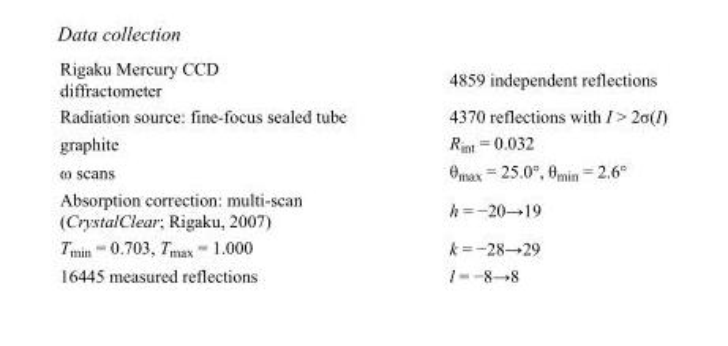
<table><tbody><tr><td>Rigaku Mercury CCD diffractometer</td><td>4859 independent reflections</td></tr><tr><td>Radiation source: fine-focus sealed tube</td><td>4370 reflections with I &gt; 2σ(I)</td></tr><tr><td>graphite</td><td>R<sub>int</sub> = 0.032</td></tr><tr><td>ω scans</td><td>θ<sub>max</sub> = 25.0°, θ<sub>min</sub> = 2.6°</td></tr><tr><td>Absorption correction: multi-scan (CrystalClear; Rigaku, 2007)</td><td>h = −20→19</td></tr><tr><td>T<sub>min</sub> = 0.703, T<sub>max</sub> = 1.000</td><td>k = −28→29</td></tr><tr><td>16445 measured reflections</td><td>l = −8→8</td></tr></tbody></table>